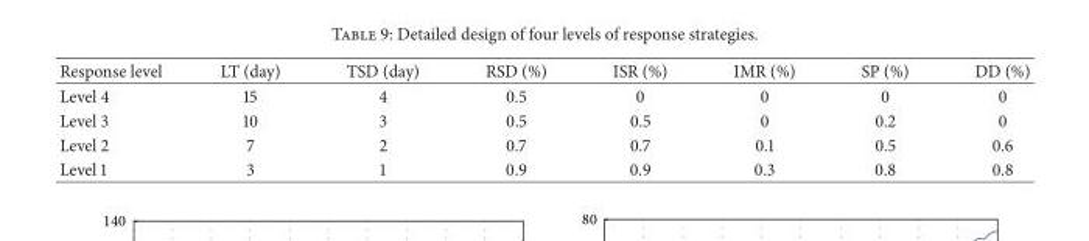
<table><thead><tr><td>Response level</td><td>LT (day)</td><td>TSD (day)</td><td>RSD (%)</td><td>ISR (%)</td><td>IMR (%)</td><td>SP (%)</td><td>DD (%)</td></tr></thead><tbody><tr><td>Level 4</td><td>15</td><td>4</td><td>0.5</td><td>0</td><td>0</td><td>0</td><td>0</td></tr><tr><td>Level 3</td><td>10</td><td>3</td><td>0.5</td><td>0.5</td><td>0</td><td>0.2</td><td>0</td></tr><tr><td>Level 2</td><td>7</td><td>2</td><td>0.7</td><td>0.7</td><td>0.1</td><td>0.5</td><td>0.6</td></tr><tr><td>Level 1</td><td>3</td><td>1</td><td>0.9</td><td>0.9</td><td>0.3</td><td>0.8</td><td>0.8</td></tr></tbody></table>